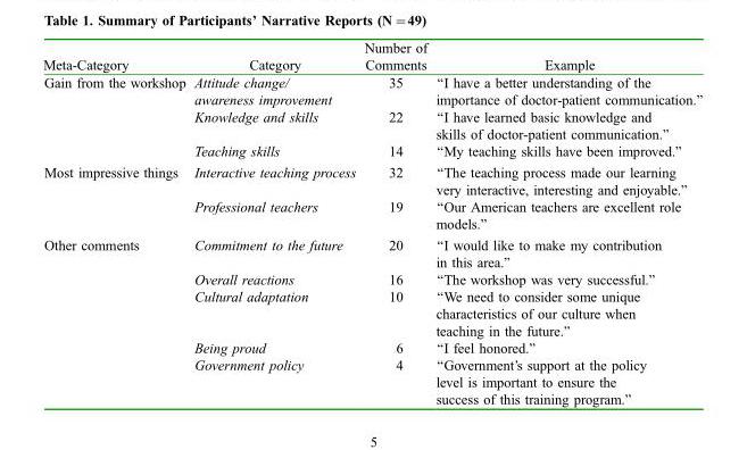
<table><thead><tr><td>Meta-Category</td><td>Category</td><td>Number of Comments</td><td>Example</td></tr></thead><tbody><tr><td rowspan="3">Gain from the workshop</td><td>Attitude change/ awareness improvement</td><td>35</td><td>‘‘I have a better understanding of the importance of doctor-patient communication.’’</td></tr><tr><td>Knowledge and skills</td><td>22</td><td>‘‘I have learned basic knowledge and skills of doctor-patient communication.’’</td></tr><tr><td>Teaching skills</td><td>14</td><td>‘‘My teaching skills have been improved.’’</td></tr><tr><td rowspan="2">Most impressive things</td><td>Interactive teaching process</td><td>32</td><td>‘‘The teaching process made our learning very interactive, interesting and enjoyable.’’</td></tr><tr><td>Professional teachers</td><td>19</td><td>‘‘Our American teachers are excellent role models.’’</td></tr><tr><td rowspan="5">Other comments</td><td>Commitment to the future</td><td>20</td><td>‘‘I would like to make my contribution in this area.’’</td></tr><tr><td>Overall reactions</td><td>16</td><td>‘‘The workshop was very successful.’’</td></tr><tr><td>Cultural adaptation</td><td>10</td><td>‘‘We need to consider some unique characteristics of our culture when teaching in the future.’’</td></tr><tr><td>Being proud</td><td>6</td><td>‘‘I feel honored.’’</td></tr><tr><td>Government policy</td><td>4</td><td>‘‘Government’s support at the policy level is important to ensure the success of this training program.’’</td></tr></tbody></table>